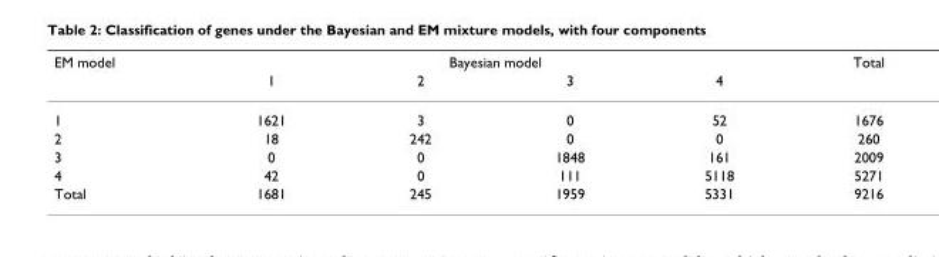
<table><thead><tr><td rowspan="2">EM model</td><td colspan="4">Bayesian model</td><td rowspan="2">Total</td></tr><tr><td>1</td><td>2</td><td>3</td><td>4</td></tr></thead><tbody><tr><td>1</td><td>1621</td><td>3</td><td>0</td><td>52</td><td>1676</td></tr><tr><td>2</td><td>18</td><td>242</td><td>0</td><td>0</td><td>260</td></tr><tr><td>3</td><td>0</td><td>0</td><td>1848</td><td>161</td><td>2009</td></tr><tr><td>4</td><td>42</td><td>0</td><td>111</td><td>5118</td><td>5271</td></tr><tr><td>Total</td><td>1681</td><td>245</td><td>1959</td><td>5331</td><td>9216</td></tr></tbody></table>